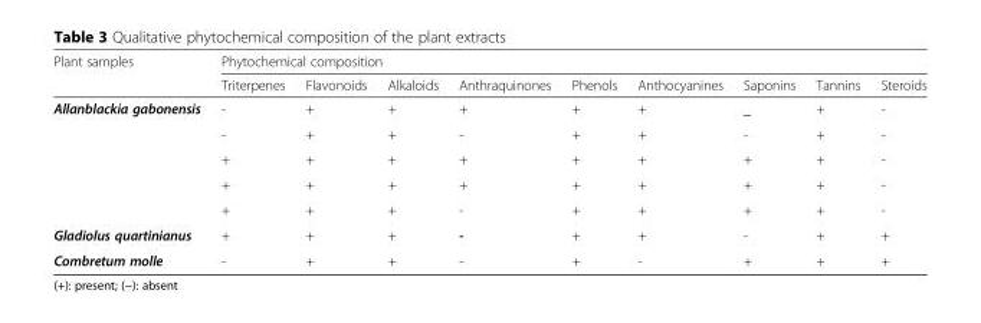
<table><thead><tr><td rowspan="2">Plant samples</td><td colspan="9">Phytochemical composition</td></tr><tr><td>Triterpenes</td><td>Flavonoids</td><td>Alkaloids</td><td>Anthraquinones</td><td>Phenols</td><td>Anthocyanines</td><td>Saponins</td><td>Tannins</td><td>Steroids</td></tr></thead><tbody><tr><td rowspan="5">Allanblackia gabonensis</td><td>-</td><td>+</td><td>+</td><td>+</td><td>+</td><td>+</td><td>_</td><td>+</td><td>-</td></tr><tr><td>-</td><td>+</td><td>+</td><td>-</td><td>+</td><td>+</td><td>-</td><td>+</td><td>-</td></tr><tr><td>+</td><td>+</td><td>+</td><td>+</td><td>+</td><td>+</td><td>+</td><td>+</td><td>-</td></tr><tr><td>+</td><td>+</td><td>+</td><td>+</td><td>+</td><td>+</td><td>+</td><td>+</td><td>-</td></tr><tr><td>+</td><td>+</td><td>+</td><td>-</td><td>+</td><td>+</td><td>+</td><td>+</td><td>-</td></tr><tr><td>Gladiolus quartinianus</td><td>+</td><td>+</td><td>+</td><td>-</td><td>+</td><td>+</td><td>-</td><td>+</td><td>+</td></tr><tr><td>Combretum molle</td><td>-</td><td>+</td><td>+</td><td>-</td><td>+</td><td>-</td><td>+</td><td>+</td><td>+</td></tr></tbody></table>